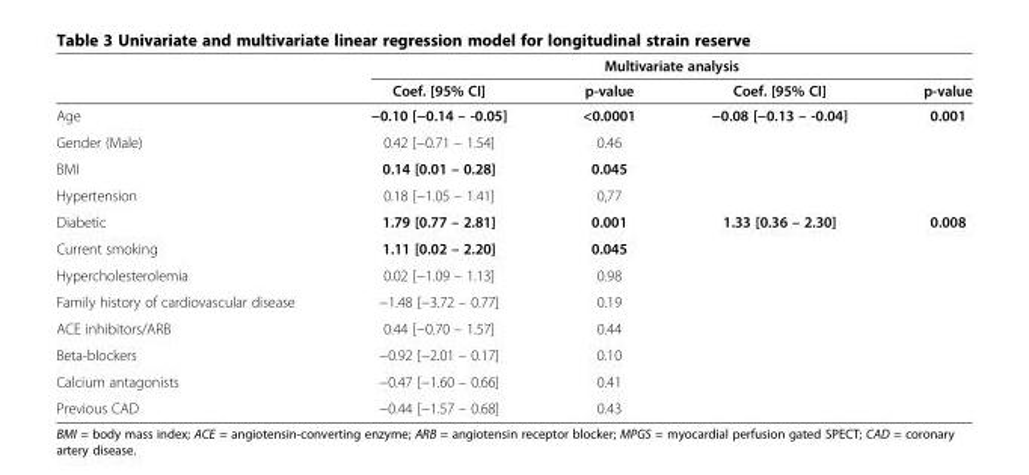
<table><thead><tr><td rowspan="2"></td><td colspan="4">Multivariate analysis</td></tr><tr><td>Coef. [95% CI]</td><td>p-value</td><td>Coef. [95% CI]</td><td>p-value</td></tr></thead><tbody><tr><td>Age</td><td>−0.10 [−0.14 – -0.05]</td><td>&lt;0.0001</td><td>−0.08 [−0.13 – -0.04]</td><td>0.001</td></tr><tr><td>Gender (Male)</td><td>0.42 [−0.71 – 1.54]</td><td>0.46</td><td></td><td></td></tr><tr><td>BMI</td><td>0.14 [0.01 – 0.28]</td><td>0.045</td><td></td><td></td></tr><tr><td>Hypertension</td><td>0.18 [−1.05 – 1.41]</td><td>0,77</td><td></td><td></td></tr><tr><td>Diabetic</td><td>1.79 [0.77 – 2.81]</td><td>0.001</td><td>1.33 [0.36 – 2.30]</td><td>0.008</td></tr><tr><td>Current smoking</td><td>1.11 [0.02 – 2.20]</td><td>0.045</td><td></td><td></td></tr><tr><td>Hypercholesterolemia</td><td>0.02 [−1.09 – 1.13]</td><td>0.98</td><td></td><td></td></tr><tr><td>Family history of cardiovascular disease</td><td>−1.48 [−3.72 – 0.77]</td><td>0.19</td><td></td><td></td></tr><tr><td>ACE inhibitors/ARB</td><td>0.44 [−0.70 – 1.57]</td><td>0.44</td><td></td><td></td></tr><tr><td>Beta-blockers</td><td>−0.92 [−2.01 – 0.17]</td><td>0.10</td><td></td><td></td></tr><tr><td>Calcium antagonists</td><td>−0.47 [−1.60 – 0.66]</td><td>0.41</td><td></td><td></td></tr><tr><td>Previous CAD</td><td>−0.44 [−1.57 – 0.68]</td><td>0.43</td><td></td><td></td></tr></tbody></table>